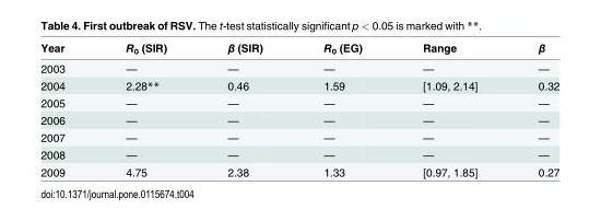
<table><thead><tr><td>Year</td><td>R<sub>0</sub> (SIR)</td><td>β (SIR)</td><td>R<sub>0</sub> (EG)</td><td>Range</td><td>β</td></tr></thead><tbody><tr><td>2003</td><td>—</td><td>—</td><td>—</td><td>—</td><td>—</td></tr><tr><td>2004</td><td>2.28**</td><td>0.46</td><td>1.59</td><td>[1.09, 2.14]</td><td>0.32</td></tr><tr><td>2005</td><td>—</td><td>—</td><td>—</td><td>—</td><td>—</td></tr><tr><td>2006</td><td>—</td><td>—</td><td>—</td><td>—</td><td>—</td></tr><tr><td>2007</td><td>—</td><td>—</td><td>—</td><td>—</td><td>—</td></tr><tr><td>2008</td><td>—</td><td>—</td><td>—</td><td>—</td><td>—</td></tr><tr><td>2009</td><td>4.75</td><td>2.38</td><td>1.33</td><td>[0.97, 1.85]</td><td>0.27</td></tr></tbody></table>